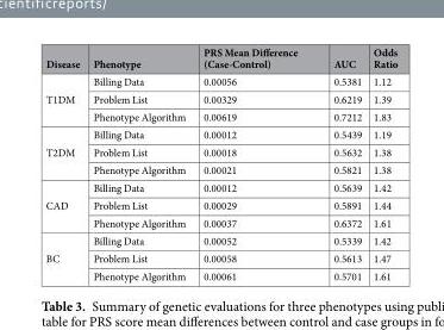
<table><thead><tr><td>Disease</td><td>Phenotype</td><td>PRS Mean Difference (Case-Control)</td><td>AUC</td><td>Odds Ratio</td></tr></thead><tbody><tr><td rowspan="3">T1DM</td><td>Billing Data</td><td>0.00056</td><td>0.5381</td><td>1.12</td></tr><tr><td>Problem List</td><td>0.00329</td><td>0.6219</td><td>1.39</td></tr><tr><td>Phenotype Algorithm</td><td>0.00619</td><td>0.7212</td><td>1.83</td></tr><tr><td rowspan="3">T2DM</td><td>Billing Data</td><td>0.00012</td><td>0.5439</td><td>1.19</td></tr><tr><td>Problem List</td><td>0.00018</td><td>0.5632</td><td>1.38</td></tr><tr><td>Phenotype Algorithm</td><td>0.00021</td><td>0.5821</td><td>1.38</td></tr><tr><td rowspan="3">CAD</td><td>Billing Data</td><td>0.00012</td><td>0.5639</td><td>1.42</td></tr><tr><td>Problem List</td><td>0.00029</td><td>0.5891</td><td>1.44</td></tr><tr><td>Phenotype Algorithm</td><td>0.00037</td><td>0.6372</td><td>1.61</td></tr><tr><td rowspan="3">BC</td><td>Billing Data</td><td>0.00052</td><td>0.5339</td><td>1.42</td></tr><tr><td>Problem List</td><td>0.00058</td><td>0.5613</td><td>1.47</td></tr><tr><td>Phenotype Algorithm</td><td>0.00061</td><td>0.5701</td><td>1.61</td></tr></tbody></table>